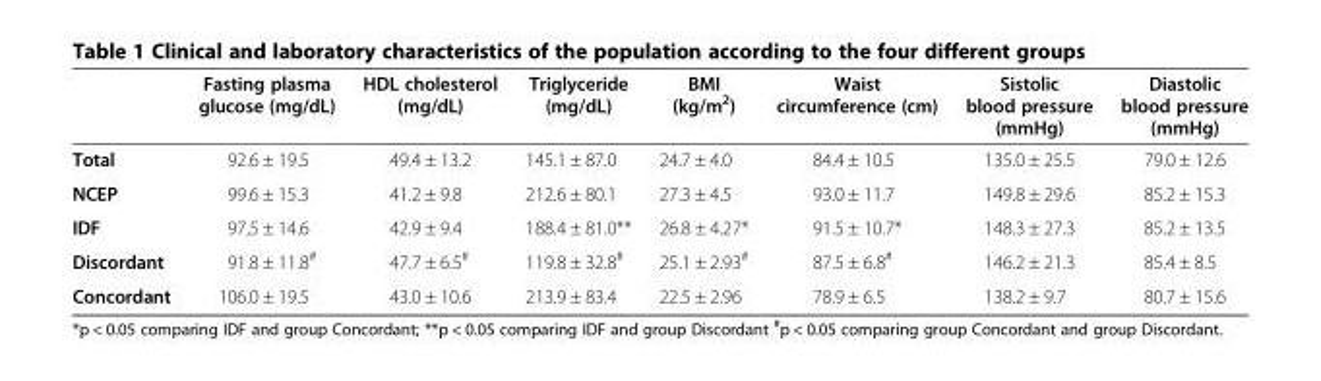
<table><thead><tr><td></td><td>Fasting plasma glucose (mg/dL)</td><td>HDL cholesterol (mg/dL)</td><td>Triglyceride (mg/dL)</td><td>BMI (kg/m<sup>2</sup>)</td><td>Waist circumference (cm)</td><td>Sistolic blood pressure (mmHg)</td><td>Diastolic blood pressure (mmHg)</td></tr></thead><tbody><tr><td>Total</td><td>92.6 ± 19.5</td><td>49.4 ± 13.2</td><td>145.1 ± 87.0</td><td>24.7 ± 4.0</td><td>84.4 ± 10.5</td><td>135.0 ± 25.5</td><td>79.0 ± 12.6</td></tr><tr><td>NCEP</td><td>99.6 ± 15.3</td><td>41.2 ± 9.8</td><td>212.6 ± 80.1</td><td>27.3 ± 4.5</td><td>93.0 ± 11.7</td><td>149.8 ± 29.6</td><td>85.2 ± 15.3</td></tr><tr><td>IDF</td><td>97,5 ± 14.6</td><td>42.9 ± 9.4</td><td>188.4 ± 81.0**</td><td>26.8 ± 4.27*</td><td>91.5 ± 10.7*</td><td>148.3 ± 27.3</td><td>85.2 ± 13.5</td></tr><tr><td>Discordant</td><td>91.8 ± 11.8<sup>#</sup></td><td>47.7 ± 6.5<sup>#</sup></td><td>119.8 ± 32.8<sup>#</sup></td><td>25.1 ± 2.93<sup>#</sup></td><td>87.5 ± 6.8<sup>#</sup></td><td>146.2 ± 21.3</td><td>85.4 ± 8.5</td></tr><tr><td>Concordant</td><td>106.0 ± 19.5</td><td>43.0 ± 10.6</td><td>213.9 ± 83.4</td><td>22.5 ± 2.96</td><td>78.9 ± 6.5</td><td>138.2 ± 9.7</td><td>80.7 ± 15.6</td></tr></tbody></table>